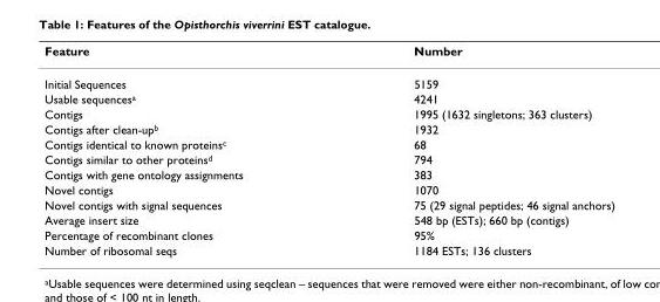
<table><thead><tr><td>Feature</td><td>Number</td></tr></thead><tbody><tr><td>Initial Sequences</td><td>5159</td></tr><tr><td>Usable sequences<sup>a</sup></td><td>4241</td></tr><tr><td>Contigs</td><td>1995 (1632 singletons; 363 clusters)</td></tr><tr><td>Contigs after clean-up<sup>b</sup></td><td>1932</td></tr><tr><td>Contigs identical to known proteins<sup>c</sup></td><td>68</td></tr><tr><td>Contigs similar to other proteins<sup>d</sup></td><td>794</td></tr><tr><td>Contigs with gene ontology assignments</td><td>383</td></tr><tr><td>Novel contigs</td><td>1070</td></tr><tr><td>Novel contigs with signal sequences</td><td>75 (29 signal peptides; 46 signal anchors)</td></tr><tr><td>Average insert size</td><td>548 bp (ESTs); 660 bp (contigs)</td></tr><tr><td>Percentage of recombinant clones</td><td>95%</td></tr><tr><td>Number of ribosomal seqs</td><td>1184 ESTs; 136 clusters</td></tr></tbody></table>